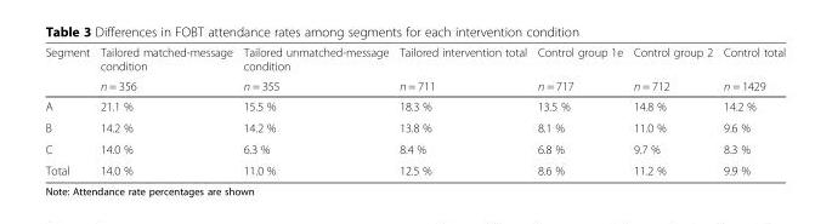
<table><thead><tr><td rowspan="2">Segment</td><td rowspan="2">Tailored matched-message condition n = 356</td><td rowspan="2">Tailored unmatched-message condition n = 355</td><td rowspan="2">Tailored intervention total n = 711</td><td rowspan="2">Control group 1e n = 717</td><td rowspan="2">Control group 2 n = 712</td><td rowspan="2">Control total n = 1429</td></tr><tr></tr></thead><tbody><tr><td>A</td><td>21.1 %</td><td>15.5 %</td><td>18.3 %</td><td>13.5 %</td><td>14.8 %</td><td>14.2 %</td></tr><tr><td>B</td><td>14.2 %</td><td>14.2 %</td><td>13.8 %</td><td>8.1 %</td><td>11.0 %</td><td>9.6 %</td></tr><tr><td>C</td><td>14.0 %</td><td>6.3 %</td><td>8.4 %</td><td>6.8 %</td><td>9.7 %</td><td>8.3 %</td></tr><tr><td>Total</td><td>14.0 %</td><td>11.0 %</td><td>12.5 %</td><td>8.6 %</td><td>11.2 %</td><td>9.9 %</td></tr></tbody></table>